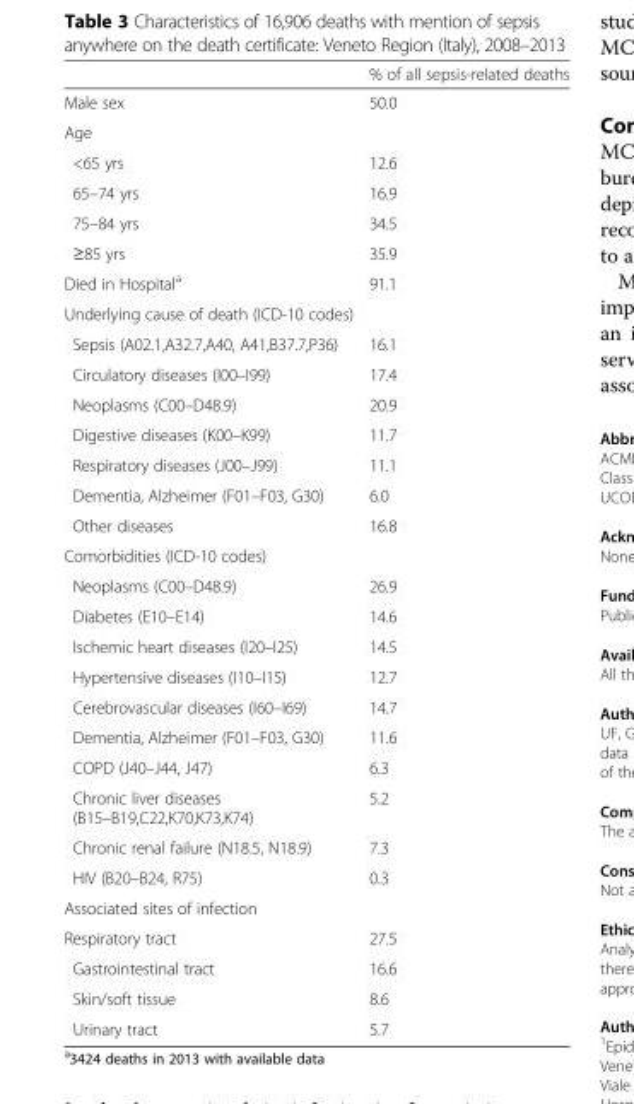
<table><thead><tr><td></td><td>% of all sepsis-related deaths</td></tr></thead><tbody><tr><td>Male sex</td><td>50.0</td></tr><tr><td colspan="2">Age</td></tr><tr><td>&lt;65 yrs</td><td>12.6</td></tr><tr><td>65–74 yrs</td><td>16.9</td></tr><tr><td>75–84 yrs</td><td>34.5</td></tr><tr><td>≥85 yrs</td><td>35.9</td></tr><tr><td>Died in Hospital<sup>a</sup></td><td>91.1</td></tr><tr><td colspan="2">Underlying cause of death (ICD-10 codes)</td></tr><tr><td>Sepsis (A02.1,A32.7,A40, A41,B37.7,P36)</td><td>16.1</td></tr><tr><td>Circulatory diseases (I00–I99)</td><td>17.4</td></tr><tr><td>Neoplasms (C00–D48.9)</td><td>20.9</td></tr><tr><td>Digestive diseases (K00–K99)</td><td>11.7</td></tr><tr><td>Respiratory diseases (J00–J99)</td><td>11.1</td></tr><tr><td>Dementia, Alzheimer (F01–F03, G30)</td><td>6.0</td></tr><tr><td>Other diseases</td><td>16.8</td></tr><tr><td colspan="2">Comorbidities (ICD-10 codes)</td></tr><tr><td>Neoplasms (C00–D48.9)</td><td>26.9</td></tr><tr><td>Diabetes (E10–E14)</td><td>14.6</td></tr><tr><td>Ischemic heart diseases (I20–I25)</td><td>14.5</td></tr><tr><td>Hypertensive diseases (I10–I15)</td><td>12.7</td></tr><tr><td>Cerebrovascular diseases (I60–I69)</td><td>14.7</td></tr><tr><td>Dementia, Alzheimer (F01–F03, G30)</td><td>11.6</td></tr><tr><td>COPD (J40–J44, J47)</td><td>6.3</td></tr><tr><td>Chronic liver diseases (B15–B19,C22,K70,K73,K74)</td><td>5.2</td></tr><tr><td>Chronic renal failure (N18.5, N18.9)</td><td>7.3</td></tr><tr><td>HIV (B20–B24, R75)</td><td>0.3</td></tr><tr><td colspan="2">Associated sites of infection</td></tr><tr><td>Respiratory tract</td><td>27.5</td></tr><tr><td>Gastrointestinal tract</td><td>16.6</td></tr><tr><td>Skin/soft tissue</td><td>8.6</td></tr><tr><td>Urinary tract</td><td>5.7</td></tr></tbody></table>